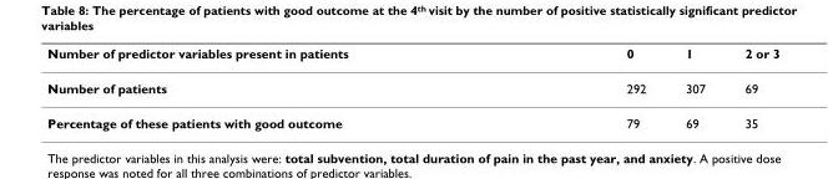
<table><thead><tr><td>Number of predictor variables present in patients</td><td>0</td><td>1</td><td>2 or 3</td></tr></thead><tbody><tr><td>Number of patients</td><td>292</td><td>307</td><td>69</td></tr><tr><td>Percentage of these patients with good outcome</td><td>79</td><td>69</td><td>35</td></tr></tbody></table>